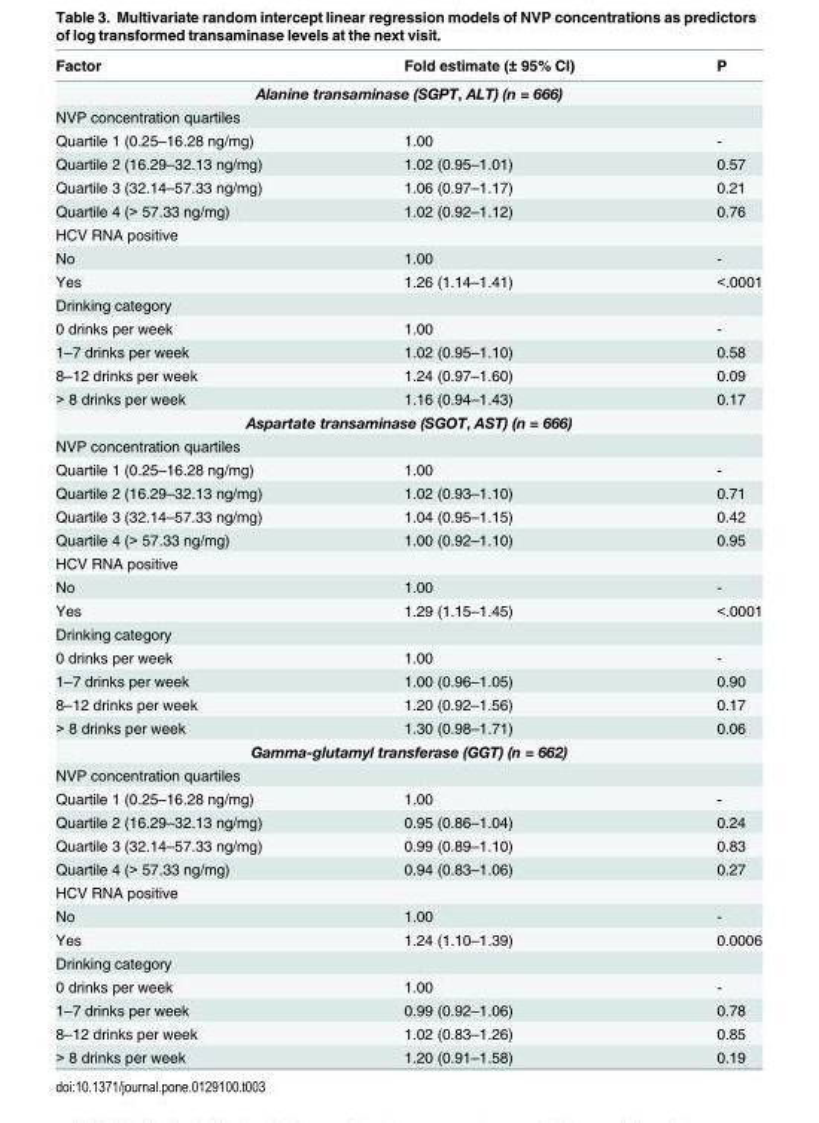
<table><thead><tr><td>Factor</td><td>Fold estimate (± 95% CI)</td><td>P</td></tr></thead><tbody><tr><td colspan="3">Alanine transaminase (SGPT, ALT) (n = 666)</td></tr><tr><td colspan="3">NVP concentration quartiles</td></tr><tr><td>Quartile 1 (0.25–16.28 ng/mg)</td><td>1.00</td><td>-</td></tr><tr><td>Quartile 2 (16.29–32.13 ng/mg)</td><td>1.02 (0.95–1.01)</td><td>0.57</td></tr><tr><td>Quartile 3 (32.14–57.33 ng/mg)</td><td>1.06 (0.97–1.17)</td><td>0.21</td></tr><tr><td>Quartile 4 (&gt; 57.33 ng/mg)</td><td>1.02 (0.92–1.12)</td><td>0.76</td></tr><tr><td colspan="3">HCV RNA positive</td></tr><tr><td>No</td><td>1.00</td><td>-</td></tr><tr><td>Yes</td><td>1.26 (1.14–1.41)</td><td>&lt;.0001</td></tr><tr><td colspan="3">Drinking category</td></tr><tr><td>0 drinks per week</td><td>1.00</td><td>-</td></tr><tr><td>1–7 drinks per week</td><td>1.02 (0.95–1.10)</td><td>0.58</td></tr><tr><td>8–12 drinks per week</td><td>1.24 (0.97–1.60)</td><td>0.09</td></tr><tr><td>&gt; 8 drinks per week</td><td>1.16 (0.94–1.43)</td><td>0.17</td></tr><tr><td colspan="3">Aspartate transaminase (SGOT, AST) (n = 666)</td></tr><tr><td colspan="3">NVP concentration quartiles</td></tr><tr><td>Quartile 1 (0.25–16.28 ng/mg)</td><td>1.00</td><td>-</td></tr><tr><td>Quartile 2 (16.29–32.13 ng/mg)</td><td>1.02 (0.93–1.10)</td><td>0.71</td></tr><tr><td>Quartile 3 (32.14–57.33 ng/mg)</td><td>1.04 (0.95–1.15)</td><td>0.42</td></tr><tr><td>Quartile 4 (&gt; 57.33 ng/mg)</td><td>1.00 (0.92–1.10)</td><td>0.95</td></tr><tr><td colspan="3">HCV RNA positive</td></tr><tr><td>No</td><td>1.00</td><td>-</td></tr><tr><td>Yes</td><td>1.29 (1.15–1.45)</td><td>&lt;.0001</td></tr><tr><td colspan="3">Drinking category</td></tr><tr><td>0 drinks per week</td><td>1.00</td><td>-</td></tr><tr><td>1–7 drinks per week</td><td>1.00 (0.96–1.05)</td><td>0.90</td></tr><tr><td>8–12 drinks per week</td><td>1.20 (0.92–1.56)</td><td>0.17</td></tr><tr><td>&gt; 8 drinks per week</td><td>1.30 (0.98–1.71)</td><td>0.06</td></tr><tr><td colspan="3">Gamma-glutamyl transferase (GGT) (n = 662)</td></tr><tr><td colspan="3">NVP concentration quartiles</td></tr><tr><td>Quartile 1 (0.25–16.28 ng/mg)</td><td>1.00</td><td>-</td></tr><tr><td>Quartile 2 (16.29–32.13 ng/mg)</td><td>0.95 (0.86–1.04)</td><td>0.24</td></tr><tr><td>Quartile 3 (32.14–57.33 ng/mg)</td><td>0.99 (0.89–1.10)</td><td>0.83</td></tr><tr><td>Quartile 4 (&gt; 57.33 ng/mg)</td><td>0.94 (0.83–1.06)</td><td>0.27</td></tr><tr><td colspan="3">HCV RNA positive</td></tr><tr><td>No</td><td>1.00</td><td>-</td></tr><tr><td>Yes</td><td>1.24 (1.10–1.39)</td><td>0.0006</td></tr><tr><td colspan="3">Drinking category</td></tr><tr><td>0 drinks per week</td><td>1.00</td><td>-</td></tr><tr><td>1–7 drinks per week</td><td>0.99 (0.92–1.06)</td><td>0.78</td></tr><tr><td>8–12 drinks per week</td><td>1.02 (0.83–1.26)</td><td>0.85</td></tr><tr><td>&gt; 8 drinks per week</td><td>1.20 (0.91–1.58)</td><td>0.19</td></tr></tbody></table>